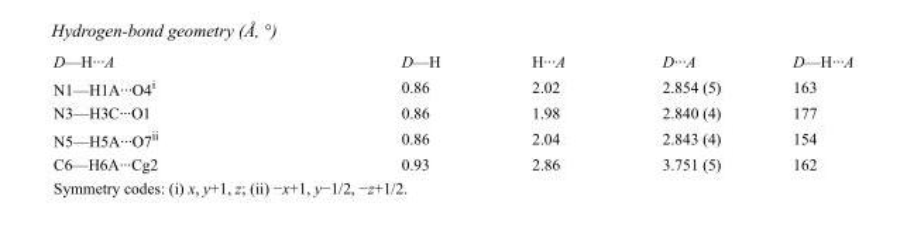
<table><tbody><tr><td>D—H···A</td><td>D—H</td><td>H···A</td><td>D···A</td><td>D—H···A</td></tr><tr><td>N1—H1A···O4<sup>i</sup></td><td>0.86</td><td>2.02</td><td>2.854 (5)</td><td>163</td></tr><tr><td>N3—H3C···O1</td><td>0.86</td><td>1.98</td><td>2.840 (4)</td><td>177</td></tr><tr><td>N5—H5A···O7<sup>ii</sup></td><td>0.86</td><td>2.04</td><td>2.843 (4)</td><td>154</td></tr><tr><td>C6—H6A···Cg2</td><td>0.93</td><td>2.86</td><td>3.751 (5)</td><td>162</td></tr></tbody></table>